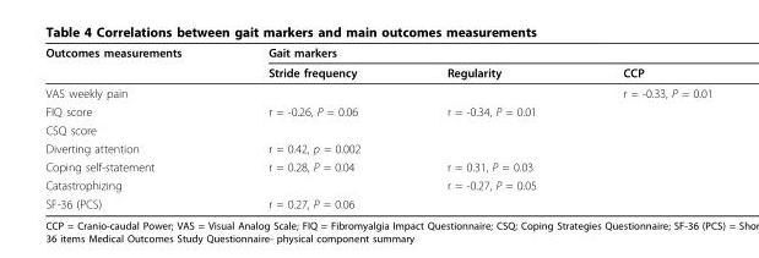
<table><thead><tr><td rowspan="2">Outcomes measurements</td><td colspan="3">Gait markers</td></tr><tr><td>Stride frequency</td><td>Regularity</td><td>CCP</td></tr></thead><tbody><tr><td>VAS weekly pain</td><td></td><td></td><td>r = -0.33, P = 0.01</td></tr><tr><td>FIQ score</td><td>r = -0.26, P = 0.06</td><td>r = -0.34, P = 0.01</td><td></td></tr><tr><td colspan="4">CSQ score</td></tr><tr><td>Diverting attention</td><td>r = 0.42, p = 0.002</td><td></td><td></td></tr><tr><td>Coping self-statement</td><td>r = 0.28, P = 0.04</td><td>r = 0.31, P = 0.03</td><td></td></tr><tr><td>Catastrophizing</td><td></td><td>r = -0.27, P = 0.05</td><td></td></tr><tr><td>SF-36 (PCS)</td><td>r = 0.27, P = 0.06</td><td></td><td></td></tr></tbody></table>